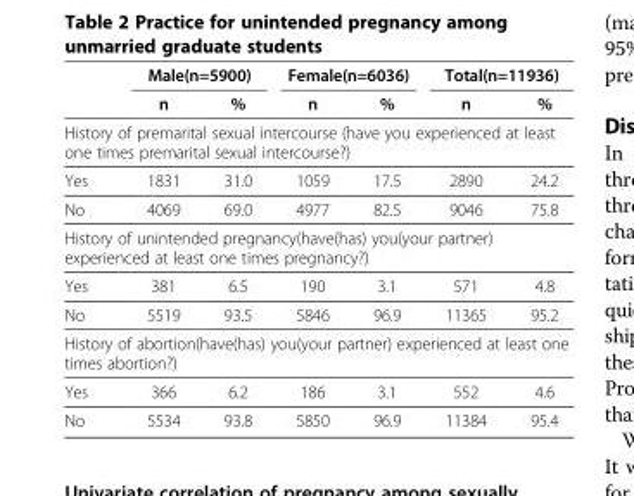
<table><thead><tr><td rowspan="2"></td><td colspan="2">Male(n=5900)</td><td colspan="2">Female(n=6036)</td><td colspan="2">Total(n=11936)</td></tr><tr><td>n</td><td>%</td><td>n</td><td>%</td><td>n</td><td>%</td></tr></thead><tbody><tr><td colspan="7">History of premarital sexual intercourse (have you experienced at least one times premarital sexual intercourse?)</td></tr><tr><td>Yes</td><td>1831</td><td>31.0</td><td>1059</td><td>17.5</td><td>2890</td><td>24.2</td></tr><tr><td>No</td><td>4069</td><td>69.0</td><td>4977</td><td>82.5</td><td>9046</td><td>75.8</td></tr><tr><td colspan="7">History of unintended pregnancy(have(has) you(your partner) experienced at least one times pregnancy?)</td></tr><tr><td>Yes</td><td>381</td><td>6.5</td><td>190</td><td>3.1</td><td>571</td><td>4.8</td></tr><tr><td>No</td><td>5519</td><td>93.5</td><td>5846</td><td>96.9</td><td>11365</td><td>95.2</td></tr><tr><td colspan="7">History of abortion(have(has) you(your partner) experienced at least one times abortion?)</td></tr><tr><td>Yes</td><td>366</td><td>6.2</td><td>186</td><td>3.1</td><td>552</td><td>4.6</td></tr><tr><td>No</td><td>5534</td><td>93.8</td><td>5850</td><td>96.9</td><td>11384</td><td>95.4</td></tr></tbody></table>